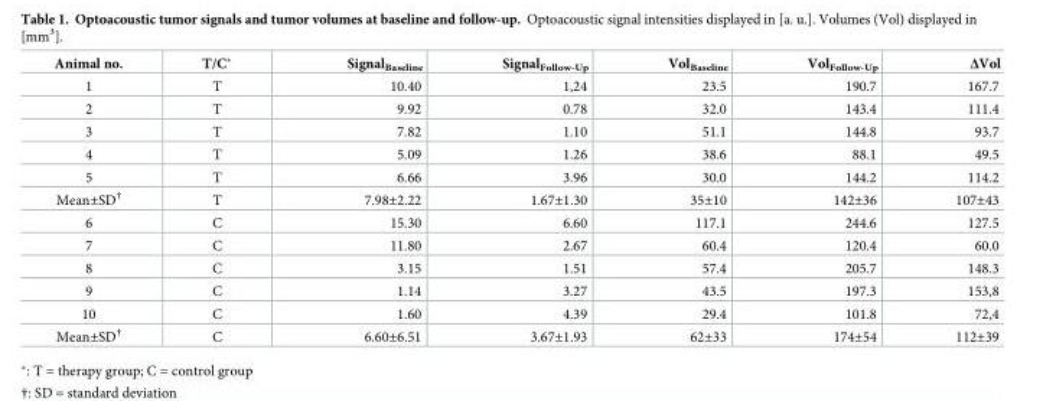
<table><thead><tr><td>Animal no.</td><td>T/C*</td><td>Signal<sub>Baseline</sub></td><td>Signal<sub>Follow-Up</sub></td><td>Vol<sub>Baseline</sub></td><td>Vol<sub>Follow-Up</sub></td><td>ΔVol</td></tr></thead><tbody><tr><td>1</td><td>T</td><td>10.40</td><td>1,24</td><td>23.5</td><td>190.7</td><td>167.7</td></tr><tr><td>2</td><td>T</td><td>9.92</td><td>0.78</td><td>32.0</td><td>143.4</td><td>111.4</td></tr><tr><td>3</td><td>T</td><td>7.82</td><td>1.10</td><td>51.1</td><td>144.8</td><td>93.7</td></tr><tr><td>4</td><td>T</td><td>5.09</td><td>1.26</td><td>38.6</td><td>88.1</td><td>49.5</td></tr><tr><td>5</td><td>T</td><td>6.66</td><td>3.96</td><td>30.0</td><td>144.2</td><td>114.2</td></tr><tr><td>Mean±SD<sup>†</sup></td><td>T</td><td>7.98±2.22</td><td>1.67±1.30</td><td>35±10</td><td>142±36</td><td>107±43</td></tr><tr><td>6</td><td>C</td><td>15.30</td><td>6.60</td><td>117.1</td><td>244.6</td><td>127.5</td></tr><tr><td>7</td><td>C</td><td>11.80</td><td>2.67</td><td>60.4</td><td>120.4</td><td>60.0</td></tr><tr><td>8</td><td>C</td><td>3.15</td><td>1.51</td><td>57.4</td><td>205.7</td><td>148.3</td></tr><tr><td>9</td><td>C</td><td>1.14</td><td>3.27</td><td>43.5</td><td>197.3</td><td>153,8</td></tr><tr><td>10</td><td>C</td><td>1.60</td><td>4.39</td><td>29.4</td><td>101.8</td><td>72,4</td></tr><tr><td>Mean±SD<sup>†</sup></td><td>C</td><td>6.60±6.51</td><td>3.67±1.93</td><td>62±33</td><td>174±54</td><td>112±39</td></tr></tbody></table>